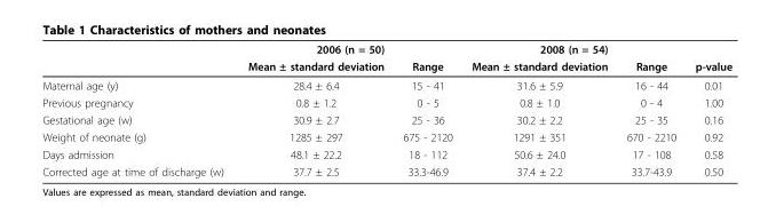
<table><thead><tr><td rowspan="2"></td><td colspan="2">2006 (n = 50)</td><td colspan="2">2008 (n = 54)</td><td rowspan="2">p-value</td></tr><tr><td>Mean ± standard deviation</td><td>Range</td><td>Mean ± standard deviation</td><td>Range</td></tr></thead><tbody><tr><td>Maternal age (y)</td><td>28.4 ± 6.4</td><td>15 - 41</td><td>31.6 ± 5.9</td><td>16 - 44</td><td>0.01</td></tr><tr><td>Previous pregnancy</td><td>0.8 ± 1.2</td><td>0 - 5</td><td>0.8 ± 1.0</td><td>0 - 4</td><td>1.00</td></tr><tr><td>Gestational age (w)</td><td>30.9 ± 2.7</td><td>25 - 36</td><td>30.2 ± 2.2</td><td>25 - 35</td><td>0.16</td></tr><tr><td>Weight of neonate (g)</td><td>1285 ± 297</td><td>675 - 2120</td><td>1291 ± 351</td><td>670 - 2210</td><td>0.92</td></tr><tr><td>Days admission</td><td>48.1 ± 22.2</td><td>18 - 112</td><td>50.6 ± 24.0</td><td>17 - 108</td><td>0.58</td></tr><tr><td>Corrected age at time of discharge (w)</td><td>37.7 ± 2.5</td><td>33.3-46.9</td><td>37.4 ± 2.2</td><td>33.7-43.9</td><td>0.50</td></tr></tbody></table>